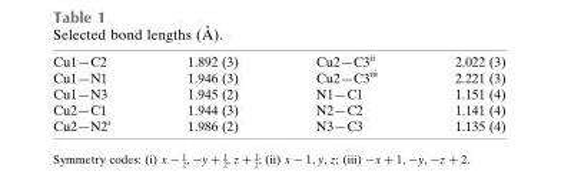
<table><tbody><tr><td>Cu1—C2</td><td>1.892 (3)</td><td>Cu2—C3<sup>ii</sup></td><td>2.022 (3)</td></tr><tr><td>Cu1—N1</td><td>1.946 (3)</td><td>Cu2—C3<sup>iii</sup></td><td>2.221 (3)</td></tr><tr><td>Cu1—N3</td><td>1.945 (2)</td><td>N1—C1</td><td>1.151 (4)</td></tr><tr><td>Cu2—C1</td><td>1.944 (3)</td><td>N2—C2</td><td>1.141 (4)</td></tr><tr><td>Cu2—N2<sup>i</sup></td><td>1.986 (2)</td><td>N3—C3</td><td>1.135 (4)</td></tr></tbody></table>